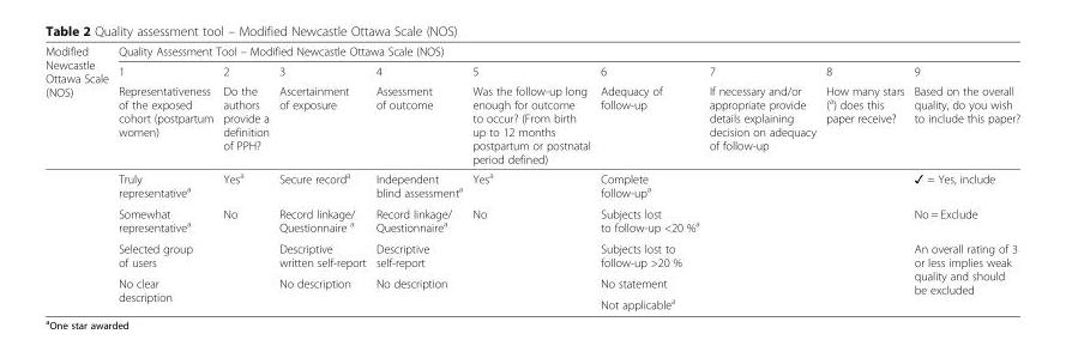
<table><thead><tr><td rowspan="3">Modified Newcastle Ottawa Scale (NOS)</td><td colspan="9">Quality Assessment Tool – Modified Newcastle Ottawa Scale (NOS)</td></tr><tr><td rowspan="2">1 Representativeness of the exposed cohort (postpartum women)</td><td rowspan="2">2 Do the authors provide a definition of PPH?</td><td rowspan="2">3 Ascertainment of exposure</td><td rowspan="2">4 Assessment of outcome</td><td rowspan="2">5 Was the follow-up long enough for outcome to occur? (From birth up to 12 months postpartum or postnatal period defined)</td><td rowspan="2">6 Adequacy of follow-up</td><td rowspan="2">7 If necessary and/or appropriate provide details explaining decision on adequacy of follow-up</td><td rowspan="2">8 How many stars (<sup>a</sup>) does this paper receive?</td><td rowspan="2">9 Based on the overall quality, do you wish to include this paper?</td></tr><tr></tr></thead><tbody><tr><td></td><td>Truly representative<sup>a</sup></td><td>Yes<sup>a</sup></td><td>Secure record<sup>a</sup></td><td>Independent blind assessment<sup>a</sup></td><td>Yes<sup>a</sup></td><td>Complete follow-up<sup>a</sup></td><td rowspan="5" colspan="2"></td><td>✓ = Yes, include</td></tr><tr><td></td><td>Somewhat representative<sup>a</sup></td><td>No</td><td>Record linkage/ Questionnaire <sup>a</sup></td><td>Record linkage/ Questionnaire<sup>a</sup></td><td>No</td><td>Subjects lost to follow-up &lt;20 %<sup>a</sup></td><td>No = Exclude</td></tr><tr><td></td><td>Selected group of users</td><td></td><td>Descriptive written self-report</td><td>Descriptive self-report</td><td></td><td>Subjects lost to follow-up &gt;20 %</td><td rowspan="3">An overall rating of 3 or less implies weak quality and should be excluded</td></tr><tr><td rowspan="2"></td><td rowspan="2">No clear description</td><td rowspan="2"></td><td rowspan="2">No description</td><td rowspan="2">No description</td><td rowspan="2"></td><td>No statement</td></tr><tr><td>Not applicable<sup>a</sup></td></tr></tbody></table>